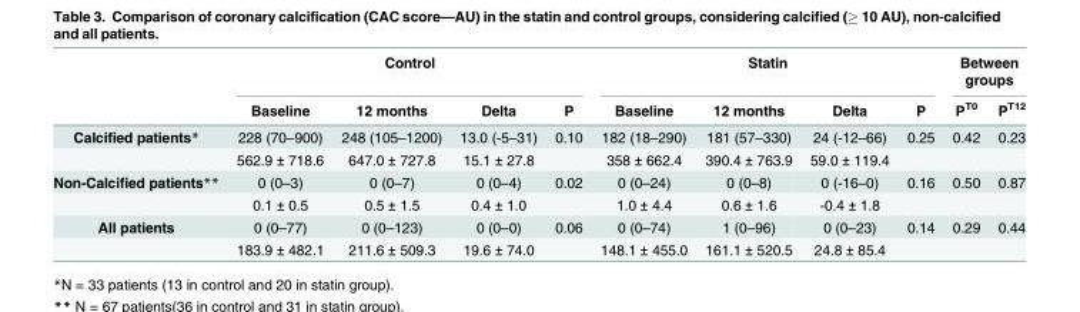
<table><thead><tr><td rowspan="2"></td><td colspan="4">Control</td><td colspan="4">Statin</td><td colspan="2">Between groups</td></tr><tr><td>Baseline</td><td>12 months</td><td>Delta</td><td>P</td><td>Baseline</td><td>12 months</td><td>Delta</td><td>P</td><td>P<sup>T0</sup></td><td>P<sup>T12</sup></td></tr></thead><tbody><tr><td rowspan="2">Calcified patients*</td><td>228 (70–900)</td><td>248 (105–1200)</td><td>13.0 (-5–31)</td><td>0.10</td><td>182 (18–290)</td><td>181 (57–330)</td><td>24 (-12–66)</td><td>0.25</td><td>0.42</td><td>0.23</td></tr><tr><td>562.9 ± 718.6</td><td>647.0 ± 727.8</td><td>15.1 ± 27.8</td><td></td><td>358 ± 662.4</td><td>390.4 ± 763.9</td><td>59.0 ± 119.4</td><td></td><td></td><td></td></tr><tr><td rowspan="2">Non-Calcified patients**</td><td>0 (0–3)</td><td>0 (0–7)</td><td>0 (0–4)</td><td>0.02</td><td>0 (0–24)</td><td>0 (0–8)</td><td>0 (-16–0)</td><td>0.16</td><td>0.50</td><td>0.87</td></tr><tr><td>0.1 ± 0.5</td><td>0.5 ± 1.5</td><td>0.4 ± 1.0</td><td></td><td>1.0 ± 4.4</td><td>0.6 ± 1.6</td><td>-0.4 ± 1.8</td><td></td><td></td><td></td></tr><tr><td rowspan="2">All patients</td><td>0 (0–77)</td><td>0 (0–123)</td><td>0 (0–0)</td><td>0.06</td><td>0 (0–74)</td><td>1 (0–96)</td><td>0 (0–23)</td><td>0.14</td><td>0.29</td><td>0.44</td></tr><tr><td>183.9 ± 482.1</td><td>211.6 ± 509.3</td><td>19.6 ± 74.0</td><td></td><td>148.1 ± 455.0</td><td>161.1 ± 520.5</td><td>24.8 ± 85.4</td><td></td><td></td><td></td></tr></tbody></table>